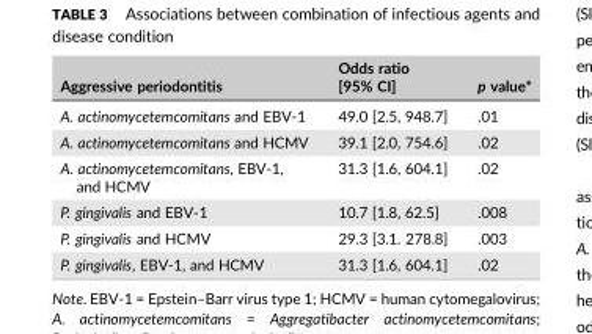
<table><thead><tr><td>Aggressive periodontitis</td><td>Odds ratio [95% CI]</td><td>p value*</td></tr></thead><tbody><tr><td>A. actinomycetemcomitans and EBV‐1</td><td>49.0 [2.5, 948.7]</td><td>.01</td></tr><tr><td>A. actinomycetemcomitans and HCMV</td><td>39.1 [2.0, 754.6]</td><td>.02</td></tr><tr><td>A. actinomycetemcomitans, EBV‐1, and HCMV</td><td>31.3 [1.6, 604.1]</td><td>.02</td></tr><tr><td>P. gingivalis and EBV‐1</td><td>10.7 [1.8, 62.5]</td><td>.008</td></tr><tr><td>P. gingivalis and HCMV</td><td>29.3 [3.1. 278.8]</td><td>.003</td></tr><tr><td>P. gingivalis, EBV‐1, and HCMV</td><td>31.3 [1.6, 604.1]</td><td>.02</td></tr></tbody></table>